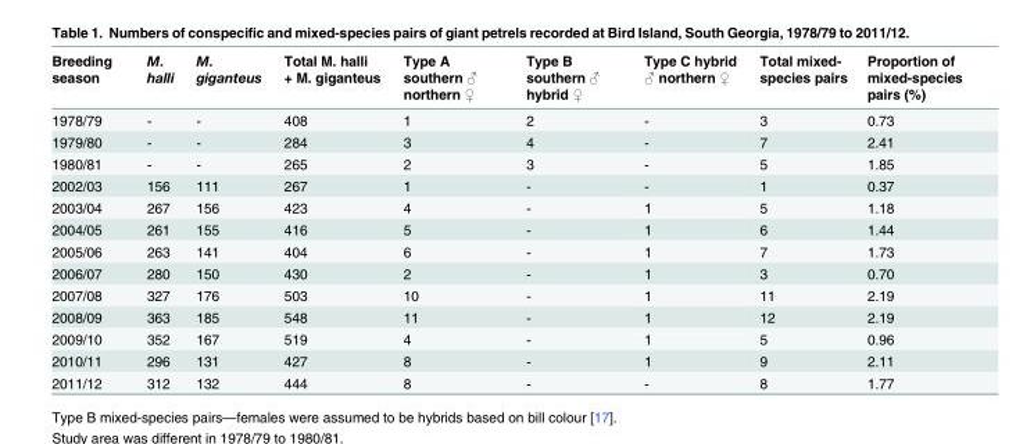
<table><thead><tr><td>Breeding season</td><td>M. halli</td><td>M. giganteus</td><td>Total M. halli + M. giganteus</td><td>Type A southern ♂ northern ♀</td><td>Type B southern ♂ hybrid ♀</td><td>Type C hybrid ♂ northern ♀</td><td>Total mixed- species pairs</td><td>Proportion of mixed-species pairs (%)</td></tr></thead><tbody><tr><td>1978/79</td><td>-</td><td>-</td><td>408</td><td>1</td><td>2</td><td>-</td><td>3</td><td>0.73</td></tr><tr><td>1979/80</td><td>-</td><td>-</td><td>284</td><td>3</td><td>4</td><td>-</td><td>7</td><td>2.41</td></tr><tr><td>1980/81</td><td>-</td><td>-</td><td>265</td><td>2</td><td>3</td><td>-</td><td>5</td><td>1.85</td></tr><tr><td>2002/03</td><td>156</td><td>111</td><td>267</td><td>1</td><td>-</td><td>-</td><td>1</td><td>0.37</td></tr><tr><td>2003/04</td><td>267</td><td>156</td><td>423</td><td>4</td><td>-</td><td>1</td><td>5</td><td>1.18</td></tr><tr><td>2004/05</td><td>261</td><td>155</td><td>416</td><td>5</td><td>-</td><td>1</td><td>6</td><td>1.44</td></tr><tr><td>2005/06</td><td>263</td><td>141</td><td>404</td><td>6</td><td>-</td><td>1</td><td>7</td><td>1.73</td></tr><tr><td>2006/07</td><td>280</td><td>150</td><td>430</td><td>2</td><td>-</td><td>1</td><td>3</td><td>0.70</td></tr><tr><td>2007/08</td><td>327</td><td>176</td><td>503</td><td>10</td><td>-</td><td>1</td><td>11</td><td>2.19</td></tr><tr><td>2008/09</td><td>363</td><td>185</td><td>548</td><td>11</td><td>-</td><td>1</td><td>12</td><td>2.19</td></tr><tr><td>2009/10</td><td>352</td><td>167</td><td>519</td><td>4</td><td>-</td><td>1</td><td>5</td><td>0.96</td></tr><tr><td>2010/11</td><td>296</td><td>131</td><td>427</td><td>8</td><td>-</td><td>1</td><td>9</td><td>2.11</td></tr><tr><td>2011/12</td><td>312</td><td>132</td><td>444</td><td>8</td><td>-</td><td>-</td><td>8</td><td>1.77</td></tr></tbody></table>